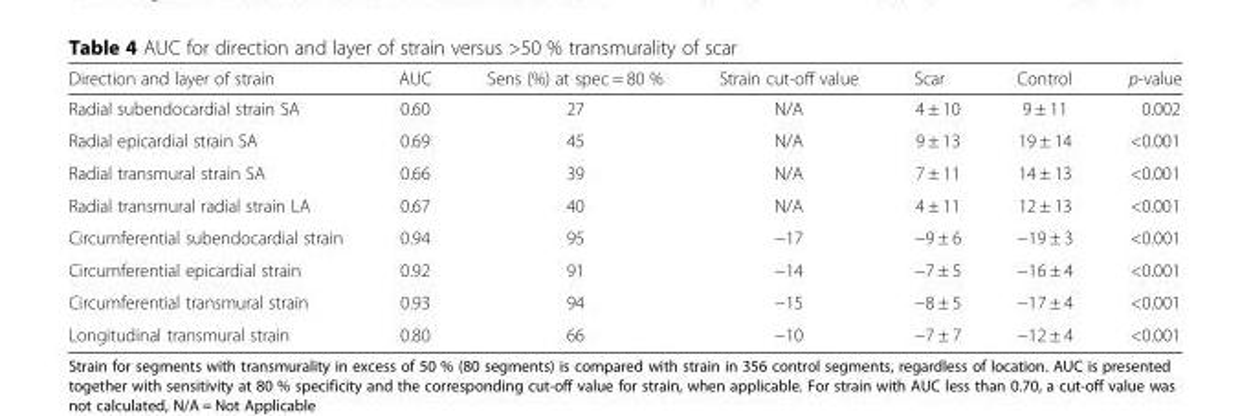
<table><thead><tr><td>Direction and layer of strain</td><td>AUC</td><td>Sens (%) at spec = 80 %</td><td>Strain cut-off value</td><td>Scar</td><td>Control</td><td>p-value</td></tr></thead><tbody><tr><td>Radial subendocardial strain SA</td><td>0.60</td><td>27</td><td>N/A</td><td>4 ± 10</td><td>9 ± 11</td><td>0.002</td></tr><tr><td>Radial epicardial strain SA</td><td>0.69</td><td>45</td><td>N/A</td><td>9 ± 13</td><td>19 ± 14</td><td>&lt;0.001</td></tr><tr><td>Radial transmural strain SA</td><td>0.66</td><td>39</td><td>N/A</td><td>7 ± 11</td><td>14 ± 13</td><td>&lt;0.001</td></tr><tr><td>Radial transmural radial strain LA</td><td>0.67</td><td>40</td><td>N/A</td><td>4 ± 11</td><td>12 ± 13</td><td>&lt;0.001</td></tr><tr><td>Circumferential subendocardial strain</td><td>0.94</td><td>95</td><td>−17</td><td>−9 ± 6</td><td>−19 ± 3</td><td>&lt;0.001</td></tr><tr><td>Circumferential epicardial strain</td><td>0.92</td><td>91</td><td>−14</td><td>−7 ± 5</td><td>−16 ± 4</td><td>&lt;0.001</td></tr><tr><td>Circumferential transmural strain</td><td>0.93</td><td>94</td><td>−15</td><td>−8 ± 5</td><td>−17 ± 4</td><td>&lt;0.001</td></tr><tr><td>Longitudinal transmural strain</td><td>0.80</td><td>66</td><td>−10</td><td>−7 ± 7</td><td>−12 ± 4</td><td>&lt;0.001</td></tr></tbody></table>